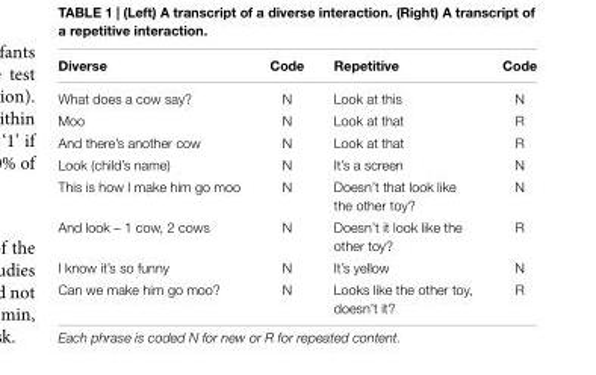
<table><thead><tr><td>Diverse</td><td>Code</td><td>Repetitive</td><td>Code</td></tr></thead><tbody><tr><td>What does a cow say?</td><td>N</td><td>Look at this</td><td>N</td></tr><tr><td>Moo</td><td>N</td><td>Look at that</td><td>R</td></tr><tr><td>And there’s another cow</td><td>N</td><td>Look at that</td><td>R</td></tr><tr><td>Look (child’s name)</td><td>N</td><td>It’s a screen</td><td>N</td></tr><tr><td>This is how I make him go moo</td><td>N</td><td>Doesn’t that look like the other toy?</td><td>N</td></tr><tr><td>And look – 1 cow, 2 cows</td><td>N</td><td>Doesn’t it look like the other toy?</td><td>R</td></tr><tr><td>I know it’s so funny</td><td>N</td><td>It’s yellow</td><td>N</td></tr><tr><td>Can we make him go moo?</td><td>N</td><td>Looks like the other toy, doesn’t it?</td><td>R</td></tr></tbody></table>